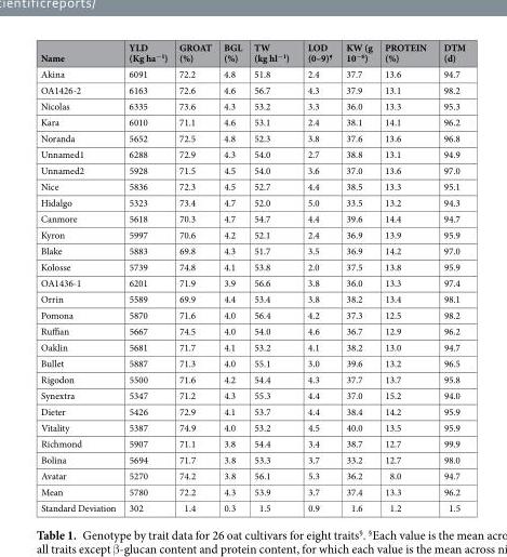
<table><thead><tr><td>Name</td><td>YLD (Kg ha<sup>−1</sup>)</td><td>GROAT (%)</td><td>BGL (%)</td><td>TW (kg hl<sup>−1</sup>)</td><td>LOD (0–9)<sup>¶</sup></td><td>KW (g 10<sup>−6</sup>)</td><td>PROTEIN (%)</td><td>DTM (d)</td></tr></thead><tbody><tr><td>Akina</td><td>6091</td><td>72.2</td><td>4.8</td><td>51.8</td><td>2.4</td><td>37.7</td><td>13.6</td><td>94.7</td></tr><tr><td>OA1426-2</td><td>6163</td><td>72.6</td><td>4.6</td><td>56.7</td><td>4.3</td><td>37.9</td><td>13.1</td><td>98.2</td></tr><tr><td>Nicolas</td><td>6335</td><td>73.6</td><td>4.3</td><td>53.2</td><td>3.3</td><td>36.0</td><td>13.3</td><td>95.3</td></tr><tr><td>Kara</td><td>6010</td><td>71.1</td><td>4.6</td><td>53.1</td><td>2.4</td><td>38.1</td><td>14.1</td><td>96.2</td></tr><tr><td>Noranda</td><td>5652</td><td>72.5</td><td>4.8</td><td>52.3</td><td>3.8</td><td>37.6</td><td>13.6</td><td>96.8</td></tr><tr><td>Unnamed1</td><td>6288</td><td>72.9</td><td>4.3</td><td>54.0</td><td>2.7</td><td>38.8</td><td>13.1</td><td>94.9</td></tr><tr><td>Unnamed2</td><td>5928</td><td>71.5</td><td>4.5</td><td>54.0</td><td>3.6</td><td>37.0</td><td>13.6</td><td>97.0</td></tr><tr><td>Nice</td><td>5836</td><td>72.3</td><td>4.5</td><td>52.7</td><td>4.4</td><td>38.5</td><td>13.3</td><td>95.1</td></tr><tr><td>Hidalgo</td><td>5323</td><td>73.4</td><td>4.7</td><td>52.0</td><td>5.0</td><td>33.5</td><td>13.2</td><td>94.3</td></tr><tr><td>Canmore</td><td>5618</td><td>70.3</td><td>4.7</td><td>54.7</td><td>4.4</td><td>39.6</td><td>14.4</td><td>94.7</td></tr><tr><td>Kyron</td><td>5997</td><td>70.6</td><td>4.2</td><td>52.1</td><td>2.4</td><td>36.9</td><td>13.9</td><td>95.9</td></tr><tr><td>Blake</td><td>5883</td><td>69.8</td><td>4.3</td><td>51.7</td><td>3.5</td><td>36.9</td><td>14.2</td><td>97.0</td></tr><tr><td>Kolosse</td><td>5739</td><td>74.8</td><td>4.1</td><td>53.8</td><td>2.0</td><td>37.5</td><td>13.8</td><td>95.9</td></tr><tr><td>OA1436-1</td><td>6201</td><td>71.9</td><td>3.9</td><td>56.6</td><td>3.8</td><td>36.0</td><td>13.3</td><td>97.4</td></tr><tr><td>Orrin</td><td>5589</td><td>69.9</td><td>4.4</td><td>53.4</td><td>3.8</td><td>38.2</td><td>13.4</td><td>98.1</td></tr><tr><td>Pomona</td><td>5870</td><td>71.6</td><td>4.0</td><td>56.4</td><td>4.2</td><td>37.3</td><td>12.5</td><td>98.2</td></tr><tr><td>Ruffian</td><td>5667</td><td>74.5</td><td>4.0</td><td>54.0</td><td>4.6</td><td>36.7</td><td>12.9</td><td>96.2</td></tr><tr><td>Oaklin</td><td>5681</td><td>71.7</td><td>4.1</td><td>53.2</td><td>4.1</td><td>38.2</td><td>13.0</td><td>94.7</td></tr><tr><td>Bullet</td><td>5887</td><td>71.3</td><td>4.0</td><td>55.1</td><td>3.0</td><td>39.6</td><td>13.2</td><td>96.5</td></tr><tr><td>Rigodon</td><td>5500</td><td>71.6</td><td>4.2</td><td>54.4</td><td>4.3</td><td>37.7</td><td>13.7</td><td>95.8</td></tr><tr><td>Synextra</td><td>5347</td><td>71.2</td><td>4.3</td><td>55.3</td><td>4.4</td><td>37.0</td><td>15.2</td><td>94.0</td></tr><tr><td>Dieter</td><td>5426</td><td>72.9</td><td>4.1</td><td>53.7</td><td>4.4</td><td>38.4</td><td>14.2</td><td>95.9</td></tr><tr><td>Vitality</td><td>5387</td><td>74.9</td><td>4.0</td><td>53.2</td><td>4.5</td><td>40.0</td><td>13.5</td><td>95.9</td></tr><tr><td>Richmond</td><td>5907</td><td>71.1</td><td>3.8</td><td>54.4</td><td>3.4</td><td>38.7</td><td>12.7</td><td>99.9</td></tr><tr><td>Bolina</td><td>5694</td><td>71.7</td><td>3.8</td><td>53.3</td><td>3.7</td><td>33.2</td><td>12.7</td><td>98.0</td></tr><tr><td>Avatar</td><td>5270</td><td>74.2</td><td>3.8</td><td>56.1</td><td>5.3</td><td>36.2</td><td>8.0</td><td>94.7</td></tr><tr><td>Mean</td><td>5780</td><td>72.2</td><td>4.3</td><td>53.9</td><td>3.7</td><td>37.4</td><td>13.3</td><td>96.2</td></tr><tr><td>Standard Deviation</td><td>302</td><td>1.4</td><td>0.3</td><td>1.5</td><td>0.9</td><td>1.6</td><td>1.2</td><td>1.5</td></tr></tbody></table>